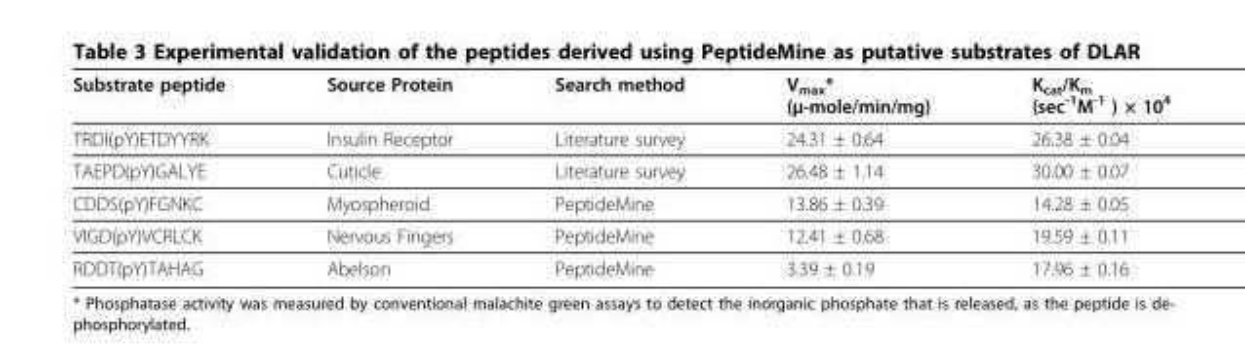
<table><thead><tr><td>Substrate peptide</td><td>Source Protein</td><td>Search method</td><td>V<sub>max</sub>* (μ-mole/min/mg)</td><td>K<sub>cat</sub>/K<sub>m</sub> (sec<sup>-1</sup>M<sup>-1</sup> ) × 10<sup>4</sup></td></tr></thead><tbody><tr><td>TRDI(pY)ETDYYRK</td><td>Insulin Receptor</td><td>Literature survey</td><td>24.31 ± 0.64</td><td>26.38 ± 0.04</td></tr><tr><td>TAEPD(pY)GALYE</td><td>Cuticle</td><td>Literature survey</td><td>26.48 ± 1.14</td><td>30.00 ± 0.07</td></tr><tr><td>CDDS(pY)FGNKC</td><td>Myospheroid</td><td>PeptideMine</td><td>13.86 ± 0.39</td><td>14.28 ± 0.05</td></tr><tr><td>VIGD(pY)VCRLCK</td><td>Nervous Fingers</td><td>PeptideMine</td><td>12.41 ± 0.68</td><td>19.59 ± 0.11</td></tr><tr><td>RDDT(pY)TAHAG</td><td>Abelson</td><td>PeptideMine</td><td>3.39 ± 0.19</td><td>17.96 ± 0.16</td></tr></tbody></table>